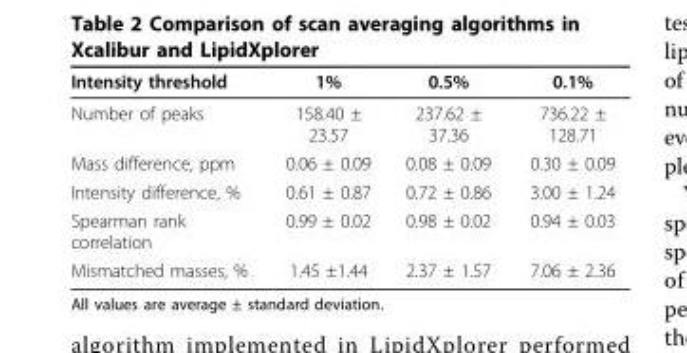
<table><thead><tr><td>Intensity threshold</td><td>1%</td><td>0.5%</td><td>0.1%</td></tr></thead><tbody><tr><td>Number of peaks</td><td>158.40 ± 23.57</td><td>237.62 ± 37.36</td><td>736.22 ± 128.71</td></tr><tr><td>Mass difference, ppm</td><td>0.06 ± 0.09</td><td>0.08 ± 0.09</td><td>0.30 ± 0.09</td></tr><tr><td>Intensity difference, %</td><td>0.61 ± 0.87</td><td>0.72 ± 0.86</td><td>3.00 ± 1.24</td></tr><tr><td>Spearman rank correlation</td><td>0.99 ± 0.02</td><td>0.98 ± 0.02</td><td>0.94 ± 0.03</td></tr><tr><td>Mismatched masses, %</td><td>1.45 ±1.44</td><td>2.37 ± 1.57</td><td>7.06 ± 2.36</td></tr></tbody></table>